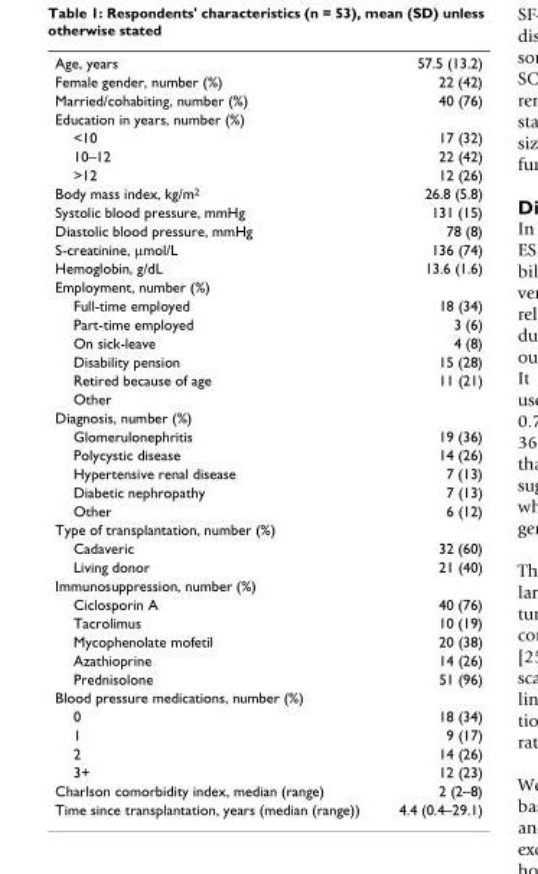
<table><tbody><tr><td>Age, years</td><td>57.5 (13.2)</td></tr><tr><td>Female gender, number (%)</td><td>22 (42)</td></tr><tr><td>Married/cohabiting, number (%)</td><td>40 (76)</td></tr><tr><td colspan="2">Education in years, number (%)</td></tr><tr><td>&lt;10</td><td>17 (32)</td></tr><tr><td>10–12</td><td>22 (42)</td></tr><tr><td>&gt;12</td><td>12 (26)</td></tr><tr><td>Body mass index, kg/m<sup>2</sup></td><td>26.8 (5.8)</td></tr><tr><td>Systolic blood pressure, mmHg</td><td>131 (15)</td></tr><tr><td>Diastolic blood pressure, mmHg</td><td>78 (8)</td></tr><tr><td>S-creatinine, µmol/L</td><td>136 (74)</td></tr><tr><td>Hemoglobin, g/dL</td><td>13.6 (1.6)</td></tr><tr><td colspan="2">Employment, number (%)</td></tr><tr><td>Full-time employed</td><td>18 (34)</td></tr><tr><td>Part-time employed</td><td>3 (6)</td></tr><tr><td>On sick-leave</td><td>4 (8)</td></tr><tr><td>Disability pension</td><td>15 (28)</td></tr><tr><td>Retired because of age</td><td>11 (21)</td></tr><tr><td colspan="2">Other</td></tr><tr><td colspan="2">Diagnosis, number (%)</td></tr><tr><td>Glomerulonephritis</td><td>19 (36)</td></tr><tr><td>Polycystic disease</td><td>14 (26)</td></tr><tr><td>Hypertensive renal disease</td><td>7 (13)</td></tr><tr><td>Diabetic nephropathy</td><td>7 (13)</td></tr><tr><td>Other</td><td>6 (12)</td></tr><tr><td colspan="2">Type of transplantation, number (%)</td></tr><tr><td>Cadaveric</td><td>32 (60)</td></tr><tr><td>Living donor</td><td>21 (40)</td></tr><tr><td colspan="2">Immunosuppression, number (%)</td></tr><tr><td>Ciclosporin A</td><td>40 (76)</td></tr><tr><td>Tacrolimus</td><td>10 (19)</td></tr><tr><td>Mycophenolate mofetil</td><td>20 (38)</td></tr><tr><td>Azathioprine</td><td>14 (26)</td></tr><tr><td>Prednisolone</td><td>51 (96)</td></tr><tr><td colspan="2">Blood pressure medications, number (%)</td></tr><tr><td>0</td><td>18 (34)</td></tr><tr><td>1</td><td>9 (17)</td></tr><tr><td>2</td><td>14 (26)</td></tr><tr><td>3+</td><td>12 (23)</td></tr><tr><td>Charlson comorbidity index, median (range)</td><td>2 (2–8)</td></tr><tr><td>Time since transplantation, years (median (range))</td><td>4.4 (0.4–29.1)</td></tr></tbody></table>